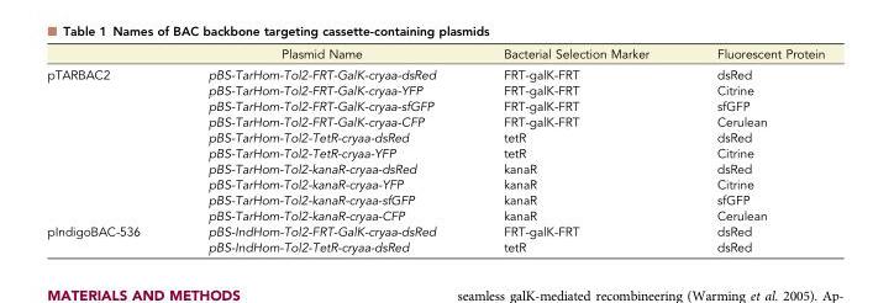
<table><thead><tr><td></td><td>Plasmid Name</td><td>Bacterial Selection Marker</td><td>Fluorescent Protein</td></tr></thead><tbody><tr><td rowspan="10">pTARBAC2</td><td>pBS-TarHom-Tol2-FRT-GalK-cryaa-dsRed</td><td>FRT-galK-FRT</td><td>dsRed</td></tr><tr><td>pBS-TarHom-Tol2-FRT-GalK-cryaa-YFP</td><td>FRT-galK-FRT</td><td>Citrine</td></tr><tr><td>pBS-TarHom-Tol2-FRT-GalK-cryaa-sfGFP</td><td>FRT-galK-FRT</td><td>sfGFP</td></tr><tr><td>pBS-TarHom-Tol2-FRT-GalK-cryaa-CFP</td><td>FRT-galK-FRT</td><td>Cerulean</td></tr><tr><td>pBS-TarHom-Tol2-TetR-cryaa-dsRed</td><td>tetR</td><td>dsRed</td></tr><tr><td>pBS-TarHom-Tol2-TetR-cryaa-YFP</td><td>tetR</td><td>Citrine</td></tr><tr><td>pBS-TarHom-Tol2-kanaR-cryaa-dsRed</td><td>kanaR</td><td>dsRed</td></tr><tr><td>pBS-TarHom-Tol2-kanaR-cryaa-YFP</td><td>kanaR</td><td>Citrine</td></tr><tr><td>pBS-TarHom-Tol2-kanaR-cryaa-sfGFP</td><td>kanaR</td><td>sfGFP</td></tr><tr><td>pBS-TarHom-Tol2-kanaR-cryaa-CFP</td><td>kanaR</td><td>Cerulean</td></tr><tr><td rowspan="2">pIndigoBAC-536</td><td>pBS-IndHom-Tol2-FRT-GalK-cryaa-dsRed</td><td>FRT-galK-FRT</td><td>dsRed</td></tr><tr><td>pBS-IndHom-Tol2-TetR-cryaa-dsRed</td><td>tetR</td><td>dsRed</td></tr></tbody></table>